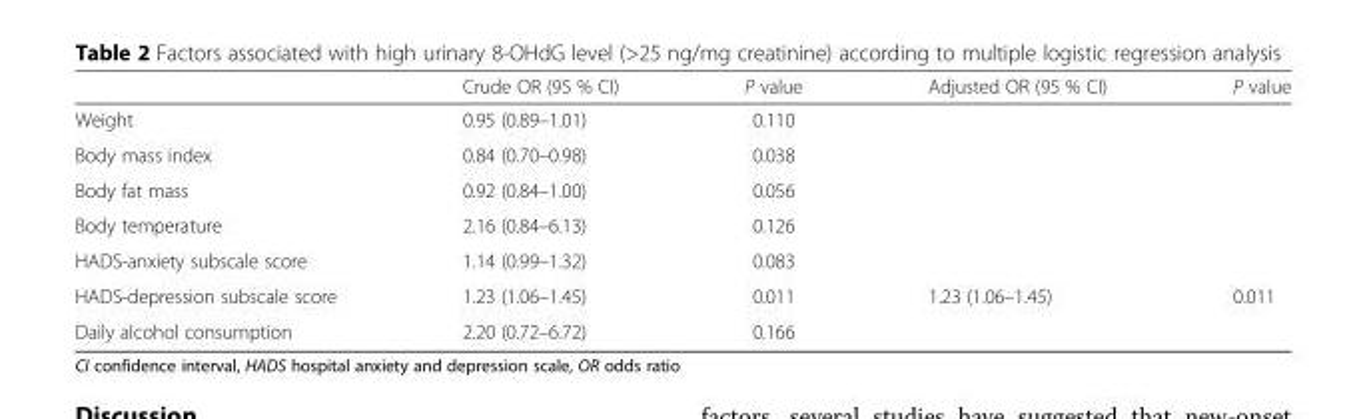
<table><thead><tr><td></td><td>Crude OR (95 % CI)</td><td>P value</td><td>Adjusted OR (95 % CI)</td><td>P value</td></tr></thead><tbody><tr><td>Weight</td><td>0.95 (0.89–1.01)</td><td>0.110</td><td></td><td></td></tr><tr><td>Body mass index</td><td>0.84 (0.70–0.98)</td><td>0.038</td><td></td><td></td></tr><tr><td>Body fat mass</td><td>0.92 (0.84–1.00)</td><td>0.056</td><td></td><td></td></tr><tr><td>Body temperature</td><td>2.16 (0.84–6.13)</td><td>0.126</td><td></td><td></td></tr><tr><td>HADS-anxiety subscale score</td><td>1.14 (0.99–1.32)</td><td>0.083</td><td></td><td></td></tr><tr><td>HADS-depression subscale score</td><td>1.23 (1.06–1.45)</td><td>0.011</td><td>1.23 (1.06–1.45)</td><td>0.011</td></tr><tr><td>Daily alcohol consumption</td><td>2.20 (0.72–6.72)</td><td>0.166</td><td></td><td></td></tr></tbody></table>